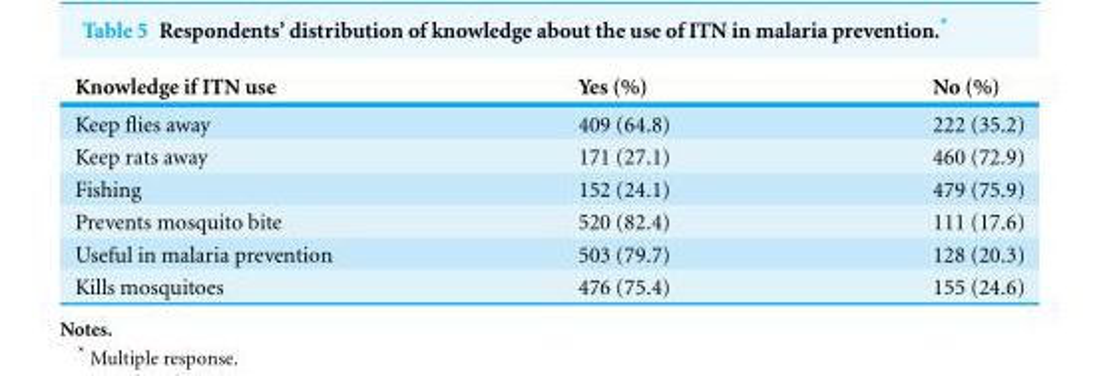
<table><thead><tr><td>Knowledge if ITN use</td><td>Yes (%)</td><td>No (%)</td></tr></thead><tbody><tr><td>Keep flies away</td><td>409 (64.8)</td><td>222 (35.2)</td></tr><tr><td>Keep rats away</td><td>171 (27.1)</td><td>460 (72.9)</td></tr><tr><td>Fishing</td><td>152 (24.1)</td><td>479 (75.9)</td></tr><tr><td>Prevents mosquito bite</td><td>520 (82.4)</td><td>111 (17.6)</td></tr><tr><td>Useful in malaria prevention</td><td>503 (79.7)</td><td>128 (20.3)</td></tr><tr><td>Kills mosquitoes</td><td>476 (75.4)</td><td>155 (24.6)</td></tr></tbody></table>